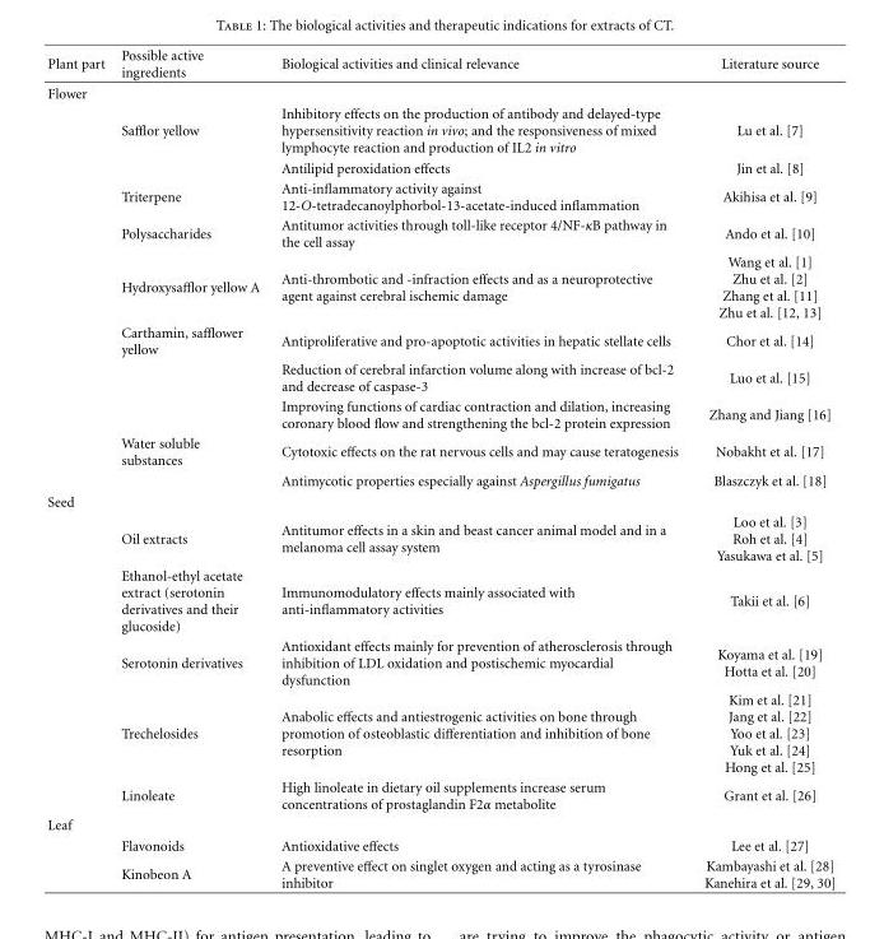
<table><thead><tr><td>Plant part</td><td>Possible active ingredients</td><td>Biological activities and clinical relevance</td><td>Literature source</td></tr></thead><tbody><tr><td colspan="4">Flower</td></tr><tr><td></td><td>Safflor yellow</td><td>Inhibitory effects on the production of antibody and delayed-type hypersensitivity reaction in vivo; and the responsiveness of mixed lymphocyte reaction and production of IL2 in vitro</td><td>Lu et al. [7]</td></tr><tr><td></td><td></td><td>Antilipid peroxidation effects</td><td>Jin et al. [8]</td></tr><tr><td></td><td>Triterpene</td><td>Anti-inflammatory activity against 12-O-tetradecanoylphorbol-13-acetate-induced inflammation</td><td>Akihisa et al. [9]</td></tr><tr><td></td><td>Polysaccharides</td><td>Antitumor activities through toll-like receptor 4/NF-κB pathway in the cell assay</td><td>Ando et al. [10]</td></tr><tr><td></td><td>Hydroxysafflor yellow A</td><td>Anti-thrombotic and -infraction effects and as a neuroprotective agent against cerebral ischemic damage</td><td>Wang et al. [1] Zhu et al. [2] Zhang et al. [11] Zhu et al. [12, 13]</td></tr><tr><td></td><td>Carthamin, safflower yellow</td><td>Antiproliferative and pro-apoptotic activities in hepatic stellate cells</td><td>Chor et al. [14]</td></tr><tr><td></td><td></td><td>Reduction of cerebral infarction volume along with increase of bcl-2 and decrease of caspase-3</td><td>Luo et al. [15]</td></tr><tr><td></td><td></td><td>Improving functions of cardiac contraction and dilation, increasing coronary blood flow and strengthening the bcl-2 protein expression</td><td>Zhang and Jiang [16]</td></tr><tr><td></td><td>Water soluble substances</td><td>Cytotoxic effects on the rat nervous cells and may cause teratogenesis</td><td>Nobakht et al. [17]</td></tr><tr><td></td><td></td><td>Antimycotic properties especially against Aspergillus fumigatus</td><td>Blaszczyk et al. [18]</td></tr><tr><td colspan="4">Seed</td></tr><tr><td></td><td>Oil extracts</td><td>Antitumor effects in a skin and beast cancer animal model and in a melanoma cell assay system</td><td>Loo et al. [3] Roh et al. [4] Yasukawa et al. [5]</td></tr><tr><td></td><td>Ethanol-ethyl acetate extract (serotonin derivatives and their glucoside)</td><td>Immunomodulatory effects mainly associated with anti-inflammatory activities</td><td>Takii et al. [6]</td></tr><tr><td></td><td>Serotonin derivatives</td><td>Antioxidant effects mainly for prevention of atherosclerosis through inhibition of LDL oxidation and postischemic myocardial dysfunction</td><td>Koyama et al. [19] Hotta et al. [20]</td></tr><tr><td></td><td>Trechelosides</td><td>Anabolic effects and antiestrogenic activities on bone through promotion of osteoblastic differentiation and inhibition of bone resorption</td><td>Kim et al. [21] Jang et al. [22] Yoo et al. [23] Yuk et al. [24] Hong et al. [25]</td></tr><tr><td></td><td>Linoleate</td><td>High linoleate in dietary oil supplements increase serum concentrations of prostaglandin F2α metabolite</td><td>Grant et al. [26]</td></tr><tr><td colspan="4">Leaf</td></tr><tr><td></td><td>Flavonoids</td><td>Antioxidative effects</td><td>Lee et al. [27]</td></tr><tr><td></td><td>Kinobeon A</td><td>A preventive effect on singlet oxygen and acting as a tyrosinase inhibitor</td><td>Kambayashi et al. [28] Kanehira et al. [29, 30]</td></tr></tbody></table>